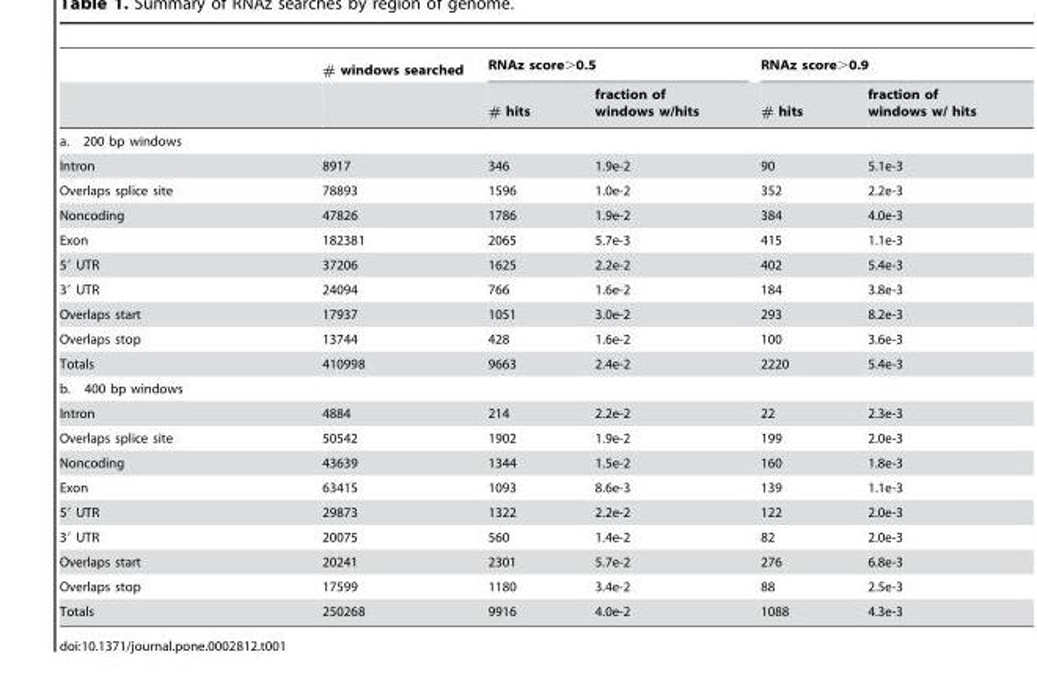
<table><thead><tr><td rowspan="2"></td><td rowspan="2"># windows searched</td><td colspan="2">RNAz score&gt;0.5</td><td colspan="2">RNAz score&gt;0.9</td></tr><tr><td># hits</td><td>fraction of windows w/hits</td><td># hits</td><td>fraction of windows w/ hits</td></tr></thead><tbody><tr><td colspan="6">a. 200 bp windows</td></tr><tr><td>Intron</td><td>8917</td><td>346</td><td>1.9e-2</td><td>90</td><td>5.1e-3</td></tr><tr><td>Overlaps splice site</td><td>78893</td><td>1596</td><td>1.0e-2</td><td>352</td><td>2.2e-3</td></tr><tr><td>Noncoding</td><td>47826</td><td>1786</td><td>1.9e-2</td><td>384</td><td>4.0e-3</td></tr><tr><td>Exon</td><td>182381</td><td>2065</td><td>5.7e-3</td><td>415</td><td>1.1e-3</td></tr><tr><td>5′ UTR</td><td>37206</td><td>1625</td><td>2.2e-2</td><td>402</td><td>5.4e-3</td></tr><tr><td>3′ UTR</td><td>24094</td><td>766</td><td>1.6e-2</td><td>184</td><td>3.8e-3</td></tr><tr><td>Overlaps start</td><td>17937</td><td>1051</td><td>3.0e-2</td><td>293</td><td>8.2e-3</td></tr><tr><td>Overlaps stop</td><td>13744</td><td>428</td><td>1.6e-2</td><td>100</td><td>3.6e-3</td></tr><tr><td>Totals</td><td>410998</td><td>9663</td><td>2.4e-2</td><td>2220</td><td>5.4e-3</td></tr><tr><td colspan="6">b. 400 bp windows</td></tr><tr><td>Intron</td><td>4884</td><td>214</td><td>2.2e-2</td><td>22</td><td>2.3e-3</td></tr><tr><td>Overlaps splice site</td><td>50542</td><td>1902</td><td>1.9e-2</td><td>199</td><td>2.0e-3</td></tr><tr><td>Noncoding</td><td>43639</td><td>1344</td><td>1.5e-2</td><td>160</td><td>1.8e-3</td></tr><tr><td>Exon</td><td>63415</td><td>1093</td><td>8.6e-3</td><td>139</td><td>1.1e-3</td></tr><tr><td>5′ UTR</td><td>29873</td><td>1322</td><td>2.2e-2</td><td>122</td><td>2.0e-3</td></tr><tr><td>3′ UTR</td><td>20075</td><td>560</td><td>1.4e-2</td><td>82</td><td>2.0e-3</td></tr><tr><td>Overlaps start</td><td>20241</td><td>2301</td><td>5.7e-2</td><td>276</td><td>6.8e-3</td></tr><tr><td>Overlaps stop</td><td>17599</td><td>1180</td><td>3.4e-2</td><td>88</td><td>2.5e-3</td></tr><tr><td>Totals</td><td>250268</td><td>9916</td><td>4.0e-2</td><td>1088</td><td>4.3e-3</td></tr></tbody></table>